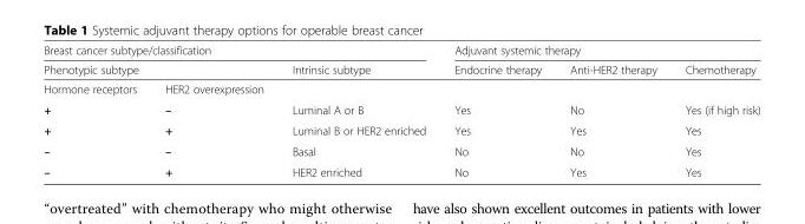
<table><thead><tr><td colspan="3">Breast cancer subtype/classification</td><td colspan="3">Adjuvant systemic therapy</td></tr><tr><td colspan="2">Phenotypic subtype</td><td rowspan="2">Intrinsic subtype</td><td rowspan="2">Endocrine therapy</td><td rowspan="2">Anti-HER2 therapy</td><td rowspan="2">Chemotherapy</td></tr><tr><td>Hormone receptors</td><td>HER2 overexpression</td></tr></thead><tbody><tr><td>+</td><td>–</td><td>Luminal A or B</td><td>Yes</td><td>No</td><td>Yes (if high risk)</td></tr><tr><td>+</td><td>+</td><td>Luminal B or HER2 enriched</td><td>Yes</td><td>Yes</td><td>Yes</td></tr><tr><td>–</td><td>–</td><td>Basal</td><td>No</td><td>No</td><td>Yes</td></tr><tr><td>–</td><td>+</td><td>HER2 enriched</td><td>No</td><td>Yes</td><td>Yes</td></tr></tbody></table>